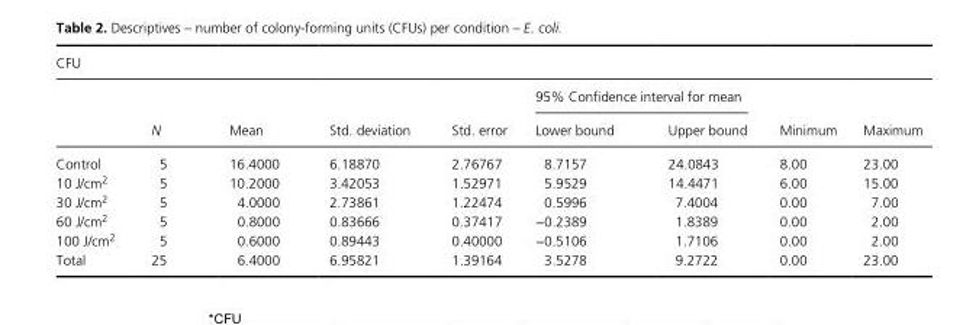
<table><thead><tr><td colspan="9">CFU</td></tr><tr><td rowspan="2"></td><td rowspan="2">N</td><td rowspan="2">Mean</td><td rowspan="2">Std. deviation</td><td rowspan="2">Std. error</td><td colspan="2">95% Confidence interval for mean</td><td rowspan="2">Minimum</td><td rowspan="2">Maximum</td></tr><tr><td>Lower bound</td><td>Upper bound</td></tr></thead><tbody><tr><td>Control</td><td>5</td><td>16.4000</td><td>6.18870</td><td>2.76767</td><td>8.7157</td><td>24.0843</td><td>8.00</td><td>23.00</td></tr><tr><td>10 J/cm<sup>2</sup></td><td>5</td><td>10.2000</td><td>3.42053</td><td>1.52971</td><td>5.9529</td><td>14.4471</td><td>6.00</td><td>15.00</td></tr><tr><td>30 J/cm<sup>2</sup></td><td>5</td><td>4.0000</td><td>2.73861</td><td>1.22474</td><td>0.5996</td><td>7.4004</td><td>0.00</td><td>7.00</td></tr><tr><td>60 J/cm<sup>2</sup></td><td>5</td><td>0.8000</td><td>0.83666</td><td>0.37417</td><td>−0.2389</td><td>1.8389</td><td>0.00</td><td>2.00</td></tr><tr><td>100 J/cm<sup>2</sup></td><td>5</td><td>0.6000</td><td>0.89443</td><td>0.40000</td><td>−0.5106</td><td>1.7106</td><td>0.00</td><td>2.00</td></tr><tr><td>Total</td><td>25</td><td>6.4000</td><td>6.95821</td><td>1.39164</td><td>3.5278</td><td>9.2722</td><td>0.00</td><td>23.00</td></tr></tbody></table>